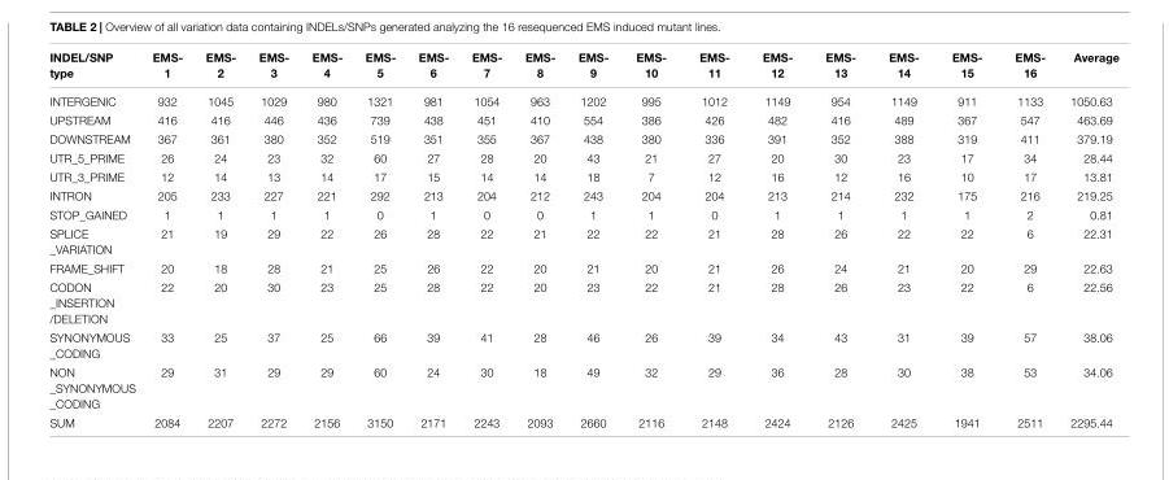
<table><thead><tr><td>INDEL/SNP type</td><td>EMS- 1</td><td>EMS- 2</td><td>EMS- 3</td><td>EMS- 4</td><td>EMS- 5</td><td>EMS- 6</td><td>EMS- 7</td><td>EMS- 8</td><td>EMS- 9</td><td>EMS- 10</td><td>EMS- 11</td><td>EMS- 12</td><td>EMS- 13</td><td>EMS- 14</td><td>EMS- 15</td><td>EMS- 16</td><td>Average</td></tr></thead><tbody><tr><td>INTERGENIC</td><td>932</td><td>1045</td><td>1029</td><td>980</td><td>1321</td><td>981</td><td>1054</td><td>963</td><td>1202</td><td>995</td><td>1012</td><td>1149</td><td>954</td><td>1149</td><td>911</td><td>1133</td><td>1050.63</td></tr><tr><td>UPSTREAM</td><td>416</td><td>416</td><td>446</td><td>436</td><td>739</td><td>438</td><td>451</td><td>410</td><td>554</td><td>386</td><td>426</td><td>482</td><td>416</td><td>489</td><td>367</td><td>547</td><td>463.69</td></tr><tr><td>DOWNSTREAM</td><td>367</td><td>361</td><td>380</td><td>352</td><td>519</td><td>351</td><td>355</td><td>367</td><td>438</td><td>380</td><td>336</td><td>391</td><td>352</td><td>388</td><td>319</td><td>411</td><td>379.19</td></tr><tr><td>UTR_5_PRIME</td><td>26</td><td>24</td><td>23</td><td>32</td><td>60</td><td>27</td><td>28</td><td>20</td><td>43</td><td>21</td><td>27</td><td>20</td><td>30</td><td>23</td><td>17</td><td>34</td><td>28.44</td></tr><tr><td>UTR_3_PRIME</td><td>12</td><td>14</td><td>13</td><td>14</td><td>17</td><td>15</td><td>14</td><td>14</td><td>18</td><td>7</td><td>12</td><td>16</td><td>12</td><td>16</td><td>10</td><td>17</td><td>13.81</td></tr><tr><td>INTRON</td><td>205</td><td>233</td><td>227</td><td>221</td><td>292</td><td>213</td><td>204</td><td>212</td><td>243</td><td>204</td><td>204</td><td>213</td><td>214</td><td>232</td><td>175</td><td>216</td><td>219.25</td></tr><tr><td>STOP_GAINED</td><td>1</td><td>1</td><td>1</td><td>1</td><td>0</td><td>1</td><td>0</td><td>0</td><td>1</td><td>1</td><td>0</td><td>1</td><td>1</td><td>1</td><td>1</td><td>2</td><td>0.81</td></tr><tr><td>SPLICE _VARIATION</td><td>21</td><td>19</td><td>29</td><td>22</td><td>26</td><td>28</td><td>22</td><td>21</td><td>22</td><td>22</td><td>21</td><td>28</td><td>26</td><td>22</td><td>22</td><td>6</td><td>22.31</td></tr><tr><td>FRAME_SHIFT</td><td>20</td><td>18</td><td>28</td><td>21</td><td>25</td><td>26</td><td>22</td><td>20</td><td>21</td><td>20</td><td>21</td><td>26</td><td>24</td><td>21</td><td>20</td><td>29</td><td>22.63</td></tr><tr><td>CODON _INSERTION /DELETION</td><td>22</td><td>20</td><td>30</td><td>23</td><td>25</td><td>28</td><td>22</td><td>20</td><td>23</td><td>22</td><td>21</td><td>28</td><td>26</td><td>23</td><td>22</td><td>6</td><td>22.56</td></tr><tr><td>SYNONYMOUS _CODING</td><td>33</td><td>25</td><td>37</td><td>25</td><td>66</td><td>39</td><td>41</td><td>28</td><td>46</td><td>26</td><td>39</td><td>34</td><td>43</td><td>31</td><td>39</td><td>57</td><td>38.06</td></tr><tr><td>NON _SYNONYMOUS _CODING</td><td>29</td><td>31</td><td>29</td><td>29</td><td>60</td><td>24</td><td>30</td><td>18</td><td>49</td><td>32</td><td>29</td><td>36</td><td>28</td><td>30</td><td>38</td><td>53</td><td>34.06</td></tr><tr><td>SUM</td><td>2084</td><td>2207</td><td>2272</td><td>2156</td><td>3150</td><td>2171</td><td>2243</td><td>2093</td><td>2660</td><td>2116</td><td>2148</td><td>2424</td><td>2126</td><td>2425</td><td>1941</td><td>2511</td><td>2295.44</td></tr></tbody></table>